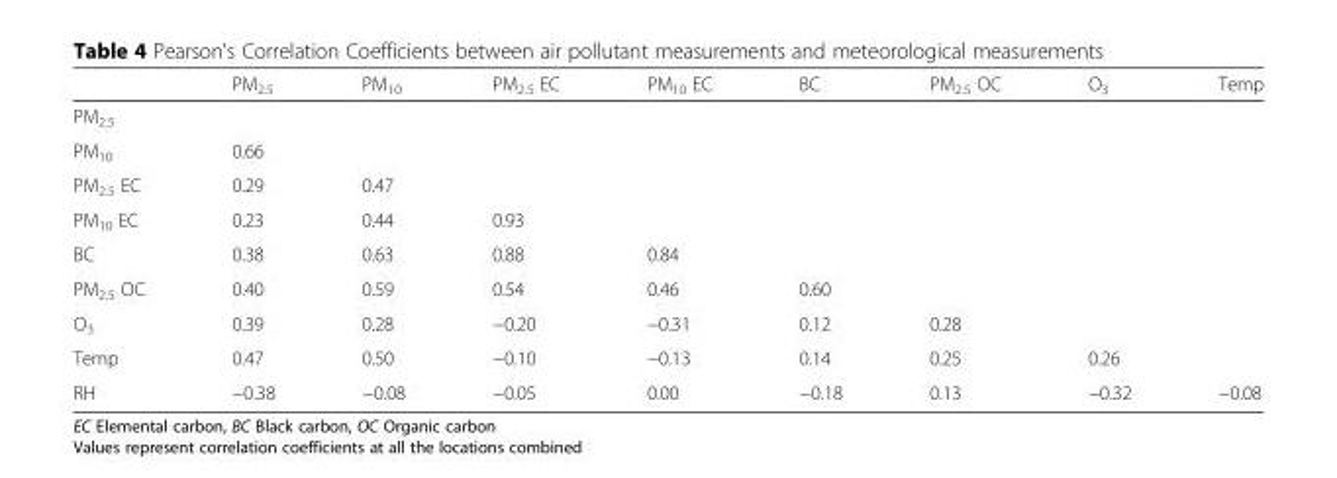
<table><thead><tr><td></td><td>PM<sub>2.5</sub></td><td>PM<sub>10</sub></td><td>PM<sub>2.5</sub> EC</td><td>PM<sub>10</sub> EC</td><td>BC</td><td>PM<sub>2.5</sub> OC</td><td>O<sub>3</sub></td><td>Temp</td></tr></thead><tbody><tr><td colspan="9">PM<sub>2.5</sub></td></tr><tr><td>PM<sub>10</sub></td><td>0.66</td><td></td><td></td><td></td><td></td><td></td><td></td><td></td></tr><tr><td>PM<sub>2.5</sub> EC</td><td>0.29</td><td>0.47</td><td></td><td></td><td></td><td></td><td></td><td></td></tr><tr><td>PM<sub>10</sub> EC</td><td>0.23</td><td>0.44</td><td>0.93</td><td></td><td></td><td></td><td></td><td></td></tr><tr><td>BC</td><td>0.38</td><td>0.63</td><td>0.88</td><td>0.84</td><td></td><td></td><td></td><td></td></tr><tr><td>PM<sub>2.5</sub> OC</td><td>0.40</td><td>0.59</td><td>0.54</td><td>0.46</td><td>0.60</td><td></td><td></td><td></td></tr><tr><td>O<sub>3</sub></td><td>0.39</td><td>0.28</td><td>−0.20</td><td>−0.31</td><td>0.12</td><td>0.28</td><td></td><td></td></tr><tr><td>Temp</td><td>0.47</td><td>0.50</td><td>−0.10</td><td>−0.13</td><td>0.14</td><td>0.25</td><td>0.26</td><td></td></tr><tr><td>RH</td><td>−0.38</td><td>−0.08</td><td>−0.05</td><td>0.00</td><td>−0.18</td><td>0.13</td><td>−0.32</td><td>−0.08</td></tr></tbody></table>